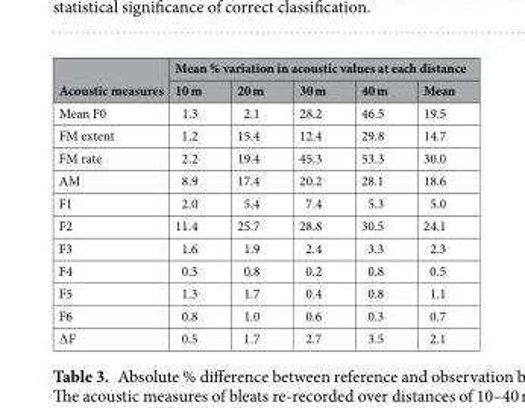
<table><thead><tr><td rowspan="2">Acoustic measures</td><td colspan="5">Mean % variation in acoustic values at each distance</td></tr><tr><td>10 m</td><td>20 m</td><td>30 m</td><td>40 m</td><td>Mean</td></tr></thead><tbody><tr><td>Mean F0</td><td>1.3</td><td>2.1</td><td>28.2</td><td>46.5</td><td>19.5</td></tr><tr><td>FM extent</td><td>1.2</td><td>15.4</td><td>12.4</td><td>29.8</td><td>14.7</td></tr><tr><td>FM rate</td><td>2.2</td><td>19.4</td><td>45.3</td><td>53.3</td><td>30.0</td></tr><tr><td>AM</td><td>8.9</td><td>17.4</td><td>20.2</td><td>28.1</td><td>18.6</td></tr><tr><td>F1</td><td>2.0</td><td>5.4</td><td>7.4</td><td>5.3</td><td>5.0</td></tr><tr><td>F2</td><td>11.4</td><td>25.7</td><td>28.8</td><td>30.5</td><td>24.1</td></tr><tr><td>F3</td><td>1.6</td><td>1.9</td><td>2.4</td><td>3.3</td><td>2.3</td></tr><tr><td>F4</td><td>0.3</td><td>0.8</td><td>0.2</td><td>0.8</td><td>0.5</td></tr><tr><td>F5</td><td>1.3</td><td>1.7</td><td>0.4</td><td>0.8</td><td>1.1</td></tr><tr><td>F6</td><td>0.8</td><td>1.0</td><td>0.6</td><td>0.3</td><td>0.7</td></tr><tr><td>∆F</td><td>0.5</td><td>1.7</td><td>2.7</td><td>3.5</td><td>2.1</td></tr></tbody></table>